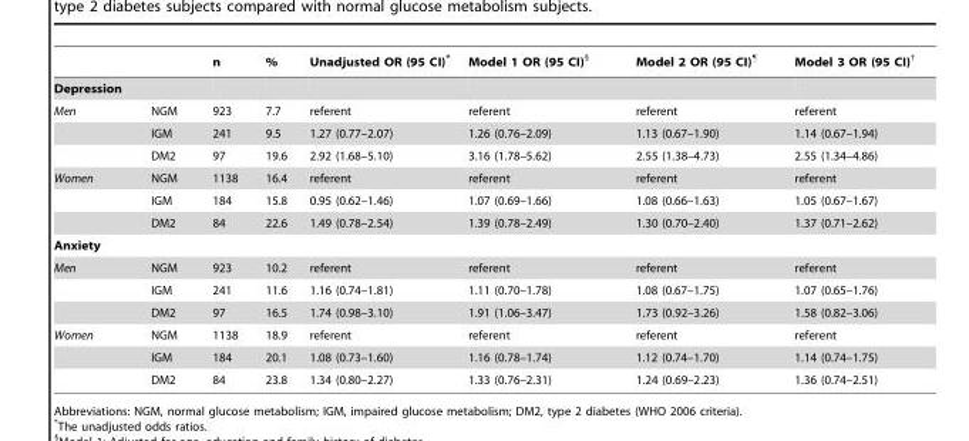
<table><thead><tr><td></td><td></td><td>n</td><td>%</td><td>Unadjusted OR (95 CI)*</td><td>Model 1 OR (95 CI)§</td><td>Model 2 OR (95 CI)¶</td><td>Model 3 OR (95 CI)†</td></tr></thead><tbody><tr><td colspan="8">Depression</td></tr><tr><td rowspan="3">Men</td><td>NGM</td><td>923</td><td>7.7</td><td>referent</td><td>referent</td><td>referent</td><td>referent</td></tr><tr><td>IGM</td><td>241</td><td>9.5</td><td>1.27 (0.77–2.07)</td><td>1.26 (0.76–2.09)</td><td>1.13 (0.67–1.90)</td><td>1.14 (0.67–1.94)</td></tr><tr><td>DM2</td><td>97</td><td>19.6</td><td>2.92 (1.68–5.10)</td><td>3.16 (1.78–5.62)</td><td>2.55 (1.38–4.73)</td><td>2.55 (1.34–4.86)</td></tr><tr><td rowspan="3">Women</td><td>NGM</td><td>1138</td><td>16.4</td><td>referent</td><td>referent</td><td>referent</td><td>referent</td></tr><tr><td>IGM</td><td>184</td><td>15.8</td><td>0.95 (0.62–1.46)</td><td>1.07 (0.69–1.66)</td><td>1.08 (0.66–1.63)</td><td>1.05 (0.67–1.67)</td></tr><tr><td>DM2</td><td>84</td><td>22.6</td><td>1.49 (0.78–2.54)</td><td>1.39 (0.78–2.49)</td><td>1.30 (0.70–2.40)</td><td>1.37 (0.71–2.62)</td></tr><tr><td colspan="8">Anxiety</td></tr><tr><td rowspan="3">Men</td><td>NGM</td><td>923</td><td>10.2</td><td>referent</td><td>referent</td><td>referent</td><td>referent</td></tr><tr><td>IGM</td><td>241</td><td>11.6</td><td>1.16 (0.74–1.81)</td><td>1.11 (0.70–1.78)</td><td>1.08 (0.67–1.75)</td><td>1.07 (0.65–1.76)</td></tr><tr><td>DM2</td><td>97</td><td>16.5</td><td>1.74 (0.98–3.10)</td><td>1.91 (1.06–3.47)</td><td>1.73 (0.92–3.26)</td><td>1.58 (0.82–3.06)</td></tr><tr><td rowspan="3">Women</td><td>NGM</td><td>1138</td><td>18.9</td><td>referent</td><td>referent</td><td>referent</td><td>referent</td></tr><tr><td>IGM</td><td>184</td><td>20.1</td><td>1.08 (0.73–1.60)</td><td>1.16 (0.78–1.74)</td><td>1.12 (0.74–1.70)</td><td>1.14 (0.74–1.75)</td></tr><tr><td>DM2</td><td>84</td><td>23.8</td><td>1.34 (0.80–2.27)</td><td>1.33 (0.76–2.31)</td><td>1.24 (0.69–2.23)</td><td>1.36 (0.74–2.51)</td></tr></tbody></table>